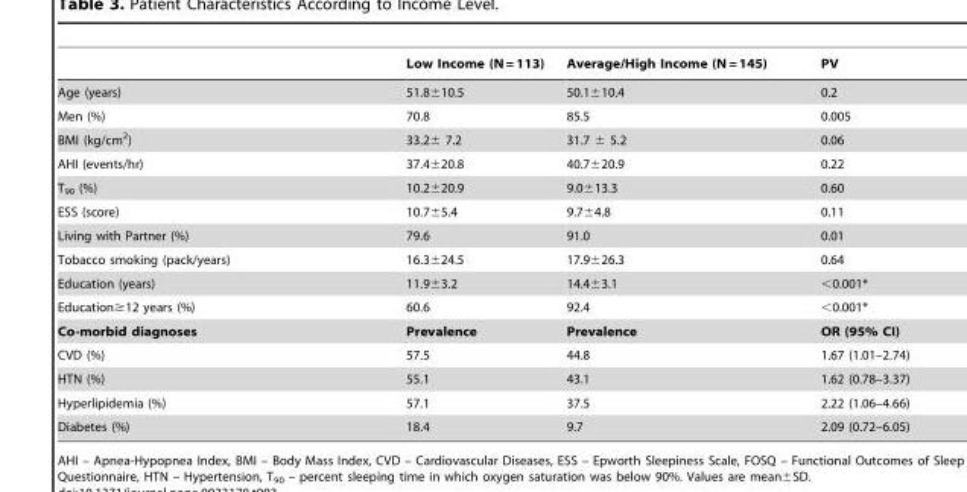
<table><thead><tr><td></td><td>Low Income (N = 113)</td><td>Average/High Income (N = 145)</td><td>PV</td></tr></thead><tbody><tr><td>Age (years)</td><td>51.8±10.5</td><td>50.1±10.4</td><td>0.2</td></tr><tr><td>Men (%)</td><td>70.8</td><td>85.5</td><td>0.005</td></tr><tr><td>BMI (kg/cm<sup>2</sup>)</td><td>33.2± 7.2</td><td>31.7 ± 5.2</td><td>0.06</td></tr><tr><td>AHI (events/hr)</td><td>37.4±20.8</td><td>40.7±20.9</td><td>0.22</td></tr><tr><td>T<sub>90</sub> (%)</td><td>10.2±20.9</td><td>9.0±13.3</td><td>0.60</td></tr><tr><td>ESS (score)</td><td>10.7±5.4</td><td>9.7±4.8</td><td>0.11</td></tr><tr><td>Living with Partner (%)</td><td>79.6</td><td>91.0</td><td>0.01</td></tr><tr><td>Tobacco smoking (pack/years)</td><td>16.3±24.5</td><td>17.9±26.3</td><td>0.64</td></tr><tr><td>Education (years)</td><td>11.9±3.2</td><td>14.4±3.1</td><td>&lt;0.001*</td></tr><tr><td>Education≥12 years (%)</td><td>60.6</td><td>92.4</td><td>&lt;0.001*</td></tr><tr><td>Co-morbid diagnoses</td><td>Prevalence</td><td>Prevalence</td><td>OR (95% CI)</td></tr><tr><td>CVD (%)</td><td>57.5</td><td>44.8</td><td>1.67 (1.01–2.74)</td></tr><tr><td>HTN (%)</td><td>55.1</td><td>43.1</td><td>1.62 (0.78–3.37)</td></tr><tr><td>Hyperlipidemia (%)</td><td>57.1</td><td>37.5</td><td>2.22 (1.06–4.66)</td></tr><tr><td>Diabetes (%)</td><td>18.4</td><td>9.7</td><td>2.09 (0.72–6.05)</td></tr></tbody></table>